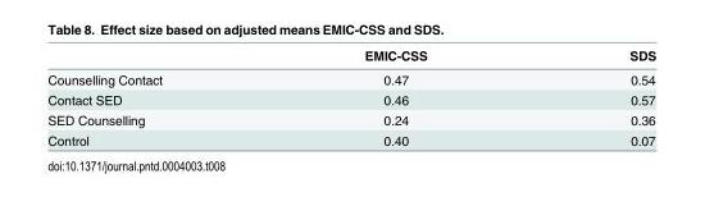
<table><thead><tr><td></td><td>EMIC-CSS</td><td>SDS</td></tr></thead><tbody><tr><td>Counselling Contact</td><td>0.47</td><td>0.54</td></tr><tr><td>Contact SED</td><td>0.46</td><td>0.57</td></tr><tr><td>SED Counselling</td><td>0.24</td><td>0.36</td></tr><tr><td>Control</td><td>0.40</td><td>0.07</td></tr></tbody></table>